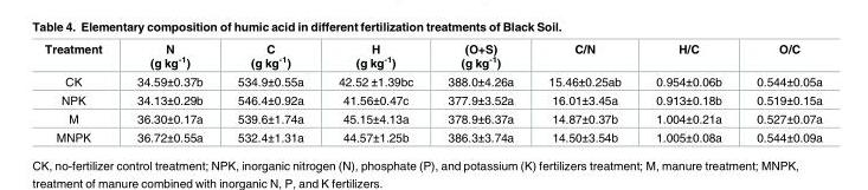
<table><thead><tr><td>Treatment</td><td>N (g kg<sup>-1</sup>)</td><td>C (g kg<sup>-1</sup>)</td><td>H (g kg<sup>-1</sup>)</td><td>(O+S) (g kg<sup>-1</sup>)</td><td>C/N</td><td>H/C</td><td>O/C</td></tr></thead><tbody><tr><td>CK</td><td>34.59±0.37b</td><td>534.9±0.55a</td><td>42.52 ±1.39bc</td><td>388.0±4.26a</td><td>15.46±0.25ab</td><td>0.954±0.06b</td><td>0.544±0.05a</td></tr><tr><td>NPK</td><td>34.13±0.29b</td><td>546.4±0.92a</td><td>41.56±0.47c</td><td>377.9±3.52a</td><td>16.01±3.45a</td><td>0.913±0.18b</td><td>0.519±0.15a</td></tr><tr><td>M</td><td>36.30±0.17a</td><td>539.6±1.74a</td><td>45.15±4.13a</td><td>378.9±6.37a</td><td>14.87±0.37b</td><td>1.004±0.21a</td><td>0.527±0.07a</td></tr><tr><td>MNPK</td><td>36.72±0.55a</td><td>532.4±1.31a</td><td>44.57±1.25b</td><td>386.3±3.74a</td><td>14.50±3.54b</td><td>1.005±0.08a</td><td>0.544±0.09a</td></tr></tbody></table>